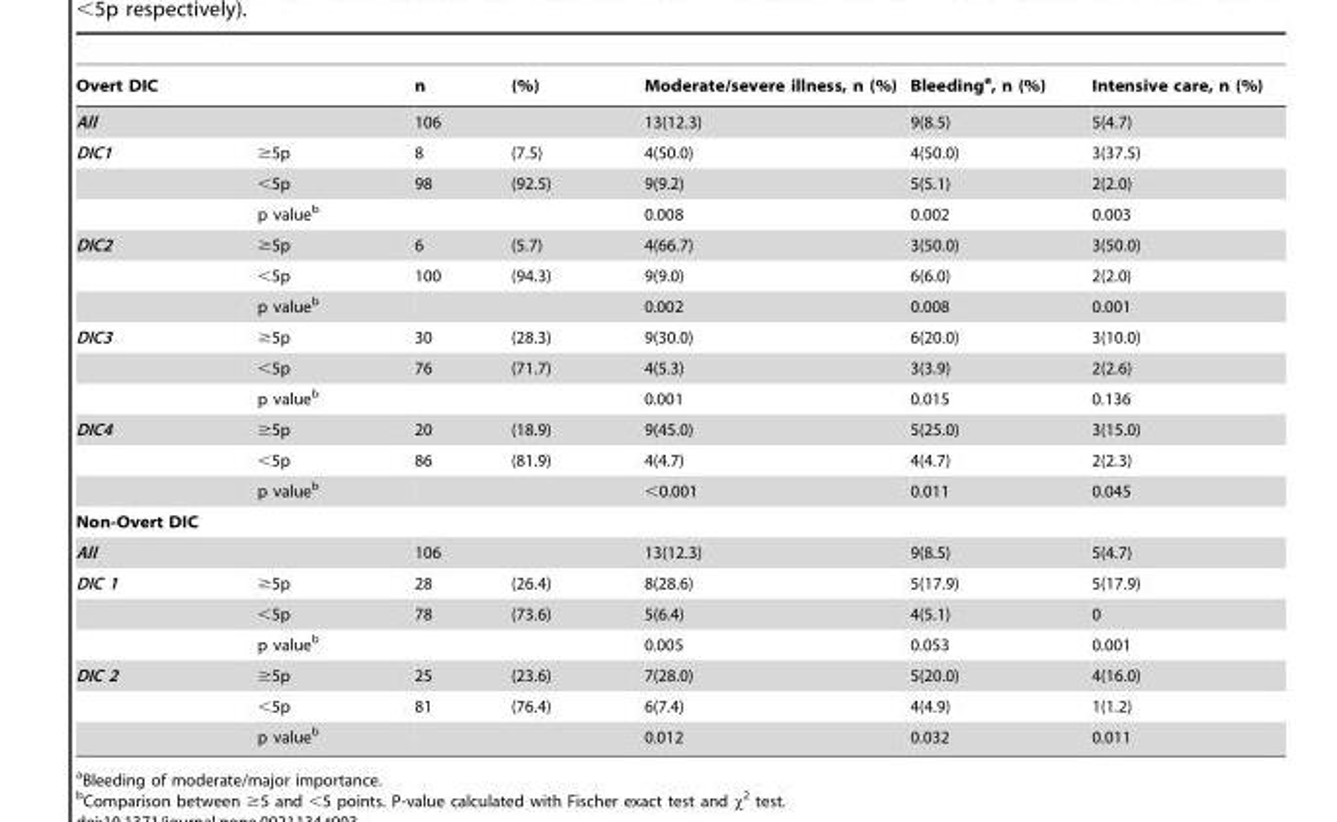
<table><thead><tr><td>Overt DIC</td><td></td><td>n</td><td>(%)</td><td>Moderate/severe illness, n (%)</td><td>Bleeding<sup>a</sup>, n (%)</td><td>Intensive care, n (%)</td></tr></thead><tbody><tr><td>All</td><td></td><td>106</td><td></td><td>13(12.3)</td><td>9(8.5)</td><td>5(4.7)</td></tr><tr><td rowspan="3">DIC1</td><td>≥5p</td><td>8</td><td>(7.5)</td><td>4(50.0)</td><td>4(50.0)</td><td>3(37.5)</td></tr><tr><td>&lt;5p</td><td>98</td><td>(92.5)</td><td>9(9.2)</td><td>5(5.1)</td><td>2(2.0)</td></tr><tr><td>p value<sup>b</sup></td><td></td><td></td><td>0.008</td><td>0.002</td><td>0.003</td></tr><tr><td rowspan="3">DIC2</td><td>≥5p</td><td>6</td><td>(5.7)</td><td>4(66.7)</td><td>3(50.0)</td><td>3(50.0)</td></tr><tr><td>&lt;5p</td><td>100</td><td>(94.3)</td><td>9(9.0)</td><td>6(6.0)</td><td>2(2.0)</td></tr><tr><td>p value<sup>b</sup></td><td></td><td></td><td>0.002</td><td>0.008</td><td>0.001</td></tr><tr><td rowspan="3">DIC3</td><td>≥5p</td><td>30</td><td>(28.3)</td><td>9(30.0)</td><td>6(20.0)</td><td>3(10.0)</td></tr><tr><td>&lt;5p</td><td>76</td><td>(71.7)</td><td>4(5.3)</td><td>3(3.9)</td><td>2(2.6)</td></tr><tr><td>p value<sup>b</sup></td><td></td><td></td><td>0.001</td><td>0.015</td><td>0.136</td></tr><tr><td rowspan="3">DIC4</td><td>≥5p</td><td>20</td><td>(18.9)</td><td>9(45.0)</td><td>5(25.0)</td><td>3(15.0)</td></tr><tr><td>&lt;5p</td><td>86</td><td>(81.9)</td><td>4(4.7)</td><td>4(4.7)</td><td>2(2.3)</td></tr><tr><td>p value<sup>b</sup></td><td></td><td></td><td>&lt;0.001</td><td>0.011</td><td>0.045</td></tr><tr><td colspan="7">Non-Overt DIC</td></tr><tr><td>All</td><td></td><td>106</td><td></td><td>13(12.3)</td><td>9(8.5)</td><td>5(4.7)</td></tr><tr><td rowspan="3">DIC 1</td><td>≥5p</td><td>28</td><td>(26.4)</td><td>8(28.6)</td><td>5(17.9)</td><td>5(17.9)</td></tr><tr><td>&lt;5p</td><td>78</td><td>(73.6)</td><td>5(6.4)</td><td>4(5.1)</td><td>0</td></tr><tr><td>p value<sup>b</sup></td><td></td><td></td><td>0.005</td><td>0.053</td><td>0.001</td></tr><tr><td rowspan="3">DIC 2</td><td>≥5p</td><td>25</td><td>(23.6)</td><td>7(28.0)</td><td>5(20.0)</td><td>4(16.0)</td></tr><tr><td>&lt;5p</td><td>81</td><td>(76.4)</td><td>6(7.4)</td><td>4(4.9)</td><td>1(1.2)</td></tr><tr><td>p value<sup>b</sup></td><td></td><td></td><td>0.012</td><td>0.032</td><td>0.011</td></tr></tbody></table>